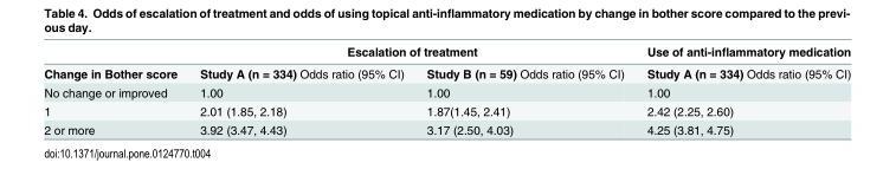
<table><thead><tr><td rowspan="2">Change in Bother score</td><td colspan="2">Escalation of treatment</td><td rowspan="2">Use of anti-inflammatory medication Study A (n = 334) Odds ratio (95% CI)</td></tr><tr><td>Study A (n = 334) Odds ratio (95% CI)</td><td>Study B (n = 59) Odds ratio (95% CI)</td></tr></thead><tbody><tr><td>No change or improved</td><td>1.00</td><td>1.00</td><td>1.00</td></tr><tr><td>1</td><td>2.01 (1.85, 2.18)</td><td>1.87(1.45, 2.41)</td><td>2.42 (2.25, 2.60)</td></tr><tr><td>2 or more</td><td>3.92 (3.47, 4.43)</td><td>3.17 (2.50, 4.03)</td><td>4.25 (3.81, 4.75)</td></tr></tbody></table>